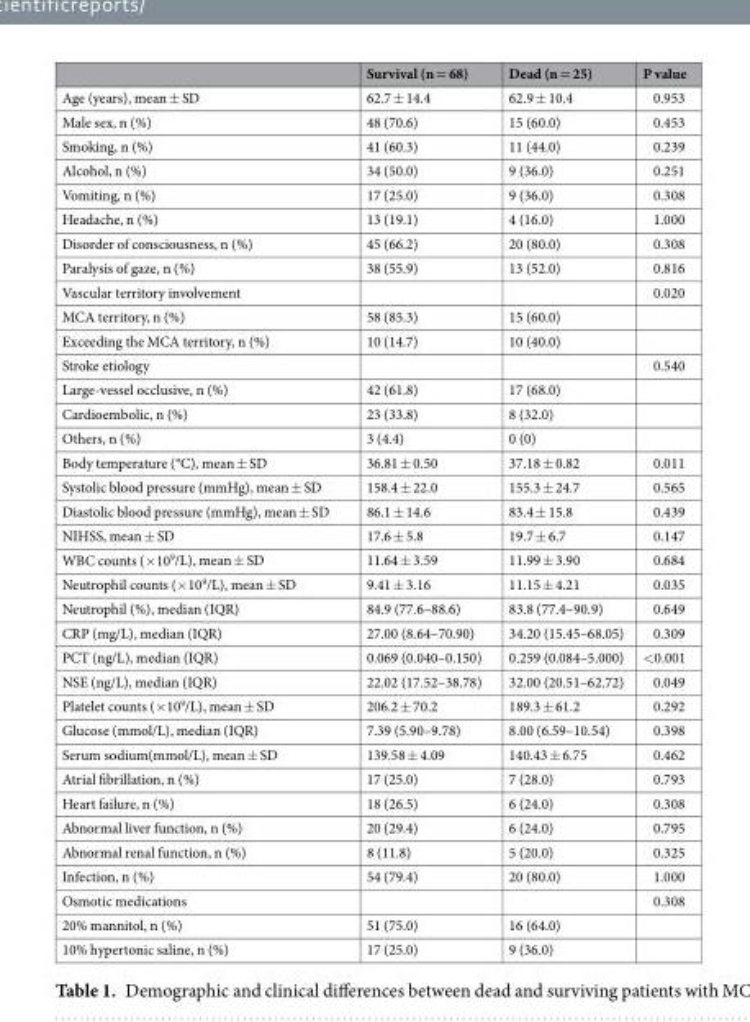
<table><thead><tr><td></td><td>Survival (n = 68)</td><td>Dead (n = 25)</td><td>P value</td></tr></thead><tbody><tr><td>Age (years), mean ± SD</td><td>62.7 ± 14.4</td><td>62.9 ± 10.4</td><td>0.953</td></tr><tr><td>Male sex, n (%)</td><td>48 (70.6)</td><td>15 (60.0)</td><td>0.453</td></tr><tr><td>Smoking, n (%)</td><td>41 (60.3)</td><td>11 (44.0)</td><td>0.239</td></tr><tr><td>Alcohol, n (%)</td><td>34 (50.0)</td><td>9 (36.0)</td><td>0.251</td></tr><tr><td>Vomiting, n (%)</td><td>17 (25.0)</td><td>9 (36.0)</td><td>0.308</td></tr><tr><td>Headache, n (%)</td><td>13 (19.1)</td><td>4 (16.0)</td><td>1.000</td></tr><tr><td>Disorder of consciousness, n (%)</td><td>45 (66.2)</td><td>20 (80.0)</td><td>0.308</td></tr><tr><td>Paralysis of gaze, n (%)</td><td>38 (55.9)</td><td>13 (52.0)</td><td>0.816</td></tr><tr><td>Vascular territory involvement</td><td></td><td></td><td>0.020</td></tr><tr><td>MCA territory, n (%)</td><td>58 (85.3)</td><td>15 (60.0)</td><td></td></tr><tr><td>Exceeding the MCA territory, n (%)</td><td>10 (14.7)</td><td>10 (40.0)</td><td></td></tr><tr><td>Stroke etiology</td><td></td><td></td><td>0.540</td></tr><tr><td>Large-vessel occlusive, n (%)</td><td>42 (61.8)</td><td>17 (68.0)</td><td></td></tr><tr><td>Cardioembolic, n (%)</td><td>23 (33.8)</td><td>8 (32.0)</td><td></td></tr><tr><td>Others, n (%)</td><td>3 (4.4)</td><td>0 (0)</td><td></td></tr><tr><td>Body temperature (°C), mean ± SD</td><td>36.81 ± 0.50</td><td>37.18 ± 0.82</td><td>0.011</td></tr><tr><td>Systolic blood pressure (mmHg), mean ± SD</td><td>158.4 ± 22.0</td><td>155.3 ± 24.7</td><td>0.565</td></tr><tr><td>Diastolic blood pressure (mmHg), mean ± SD</td><td>86.1 ± 14.6</td><td>83.4 ± 15.8</td><td>0.439</td></tr><tr><td>NIHSS, mean ± SD</td><td>17.6 ± 5.8</td><td>19.7 ± 6.7</td><td>0.147</td></tr><tr><td>WBC counts (×10<sup>9</sup>/L), mean ± SD</td><td>11.64 ± 3.59</td><td>11.99 ± 3.90</td><td>0.684</td></tr><tr><td>Neutrophil counts (×10<sup>9</sup>/L), mean ± SD</td><td>9.41 ± 3.16</td><td>11.15 ± 4.21</td><td>0.035</td></tr><tr><td>Neutrophil (%), median (IQR)</td><td>84.9 (77.6–88.6)</td><td>83.8 (77.4–90.9)</td><td>0.649</td></tr><tr><td>CRP (mg/L), median (IQR)</td><td>27.00 (8.64–70.90)</td><td>34.20 (15.45–68.05)</td><td>0.309</td></tr><tr><td>PCT (ng/L), median (IQR)</td><td>0.069 (0.040–0.150)</td><td>0.259 (0.084–5.000)</td><td>&lt;0.001</td></tr><tr><td>NSE (ng/L), median (IQR)</td><td>22.02 (17.52–38.78)</td><td>32.00 (20.51–62.72)</td><td>0.049</td></tr><tr><td>Platelet counts (×10<sup>9</sup>/L), mean ± SD</td><td>206.2 ± 70.2</td><td>189.3 ± 61.2</td><td>0.292</td></tr><tr><td>Glucose (mmol/L), median (IQR)</td><td>7.39 (5.90–9.78)</td><td>8.00 (6.59–10.54)</td><td>0.398</td></tr><tr><td>Serum sodium(mmol/L), mean ± SD</td><td>139.58 ± 4.09</td><td>140.43 ± 6.75</td><td>0.462</td></tr><tr><td>Atrial fibrillation, n (%)</td><td>17 (25.0)</td><td>7 (28.0)</td><td>0.793</td></tr><tr><td>Heart failure, n (%)</td><td>18 (26.5)</td><td>6 (24.0)</td><td>0.308</td></tr><tr><td>Abnormal liver function, n (%)</td><td>20 (29.4)</td><td>6 (24.0)</td><td>0.795</td></tr><tr><td>Abnormal renal function, n (%)</td><td>8 (11.8)</td><td>5 (20.0)</td><td>0.325</td></tr><tr><td>Infection, n (%)</td><td>54 (79.4)</td><td>20 (80.0)</td><td>1.000</td></tr><tr><td>Osmotic medications</td><td></td><td></td><td>0.308</td></tr><tr><td>20% mannitol, n (%)</td><td>51 (75.0)</td><td>16 (64.0)</td><td></td></tr><tr><td>10% hypertonic saline, n (%)</td><td>17 (25.0)</td><td>9 (36.0)</td><td></td></tr></tbody></table>